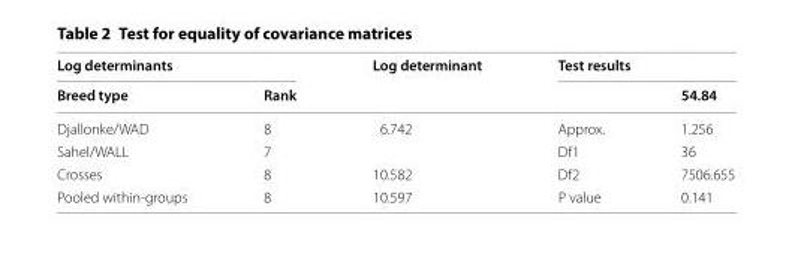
<table><thead><tr><td colspan="2">Log determinants</td><td rowspan="2">Log determinant</td><td colspan="2">Test results</td></tr><tr><td>Breed type</td><td>Rank</td><td></td><td>54.84</td></tr></thead><tbody><tr><td>Djallonke/WAD</td><td>8</td><td>6.742</td><td>Approx.</td><td>1.256</td></tr><tr><td>Sahel/WALL</td><td>7</td><td></td><td>Df1</td><td>36</td></tr><tr><td>Crosses</td><td>8</td><td>10.582</td><td>Df2</td><td>7506.655</td></tr><tr><td>Pooled within‑groups</td><td>8</td><td>10.597</td><td>P value</td><td>0.141</td></tr></tbody></table>